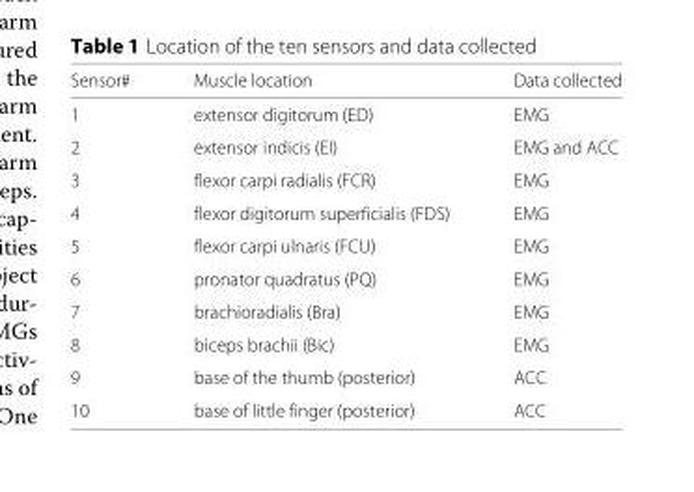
<table><thead><tr><td>Sensor#</td><td>Muscle location</td><td>Data collected</td></tr></thead><tbody><tr><td>1</td><td>extensor digitorum (ED)</td><td>EMG</td></tr><tr><td>2</td><td>extensor indicis (EI)</td><td>EMG and ACC</td></tr><tr><td>3</td><td>flexor carpi radialis (FCR)</td><td>EMG</td></tr><tr><td>4</td><td>flexor digitorum superficialis (FDS)</td><td>EMG</td></tr><tr><td>5</td><td>flexor carpi ulnaris (FCU)</td><td>EMG</td></tr><tr><td>6</td><td>pronator quadratus (PQ)</td><td>EMG</td></tr><tr><td>7</td><td>brachioradialis (Bra)</td><td>EMG</td></tr><tr><td>8</td><td>biceps brachii (Bic)</td><td>EMG</td></tr><tr><td>9</td><td>base of the thumb (posterior)</td><td>ACC</td></tr><tr><td>10</td><td>base of little finger (posterior)</td><td>ACC</td></tr></tbody></table>